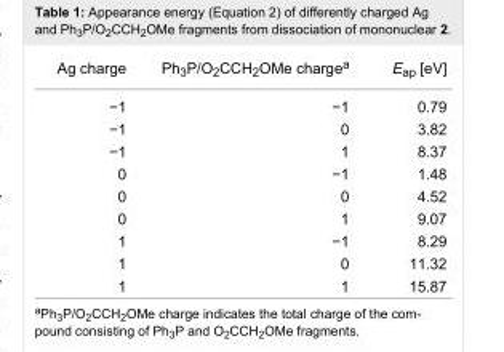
<table><tbody><tr><td>Ag charge</td><td>Ph<sub>3</sub>P/O<sub>2</sub>CCH<sub>2</sub>OMe charge<sup>a</sup></td><td>E<sub>ap</sub> [eV]</td></tr><tr><td>−1</td><td>−1</td><td>0.79</td></tr><tr><td>−1</td><td>0</td><td>3.82</td></tr><tr><td>−1</td><td>1</td><td>8.37</td></tr><tr><td>0</td><td>−1</td><td>1.48</td></tr><tr><td>0</td><td>0</td><td>4.52</td></tr><tr><td>0</td><td>1</td><td>9.07</td></tr><tr><td>1</td><td>−1</td><td>8.29</td></tr><tr><td>1</td><td>0</td><td>11.32</td></tr><tr><td>1</td><td>1</td><td>15.87</td></tr></tbody></table>